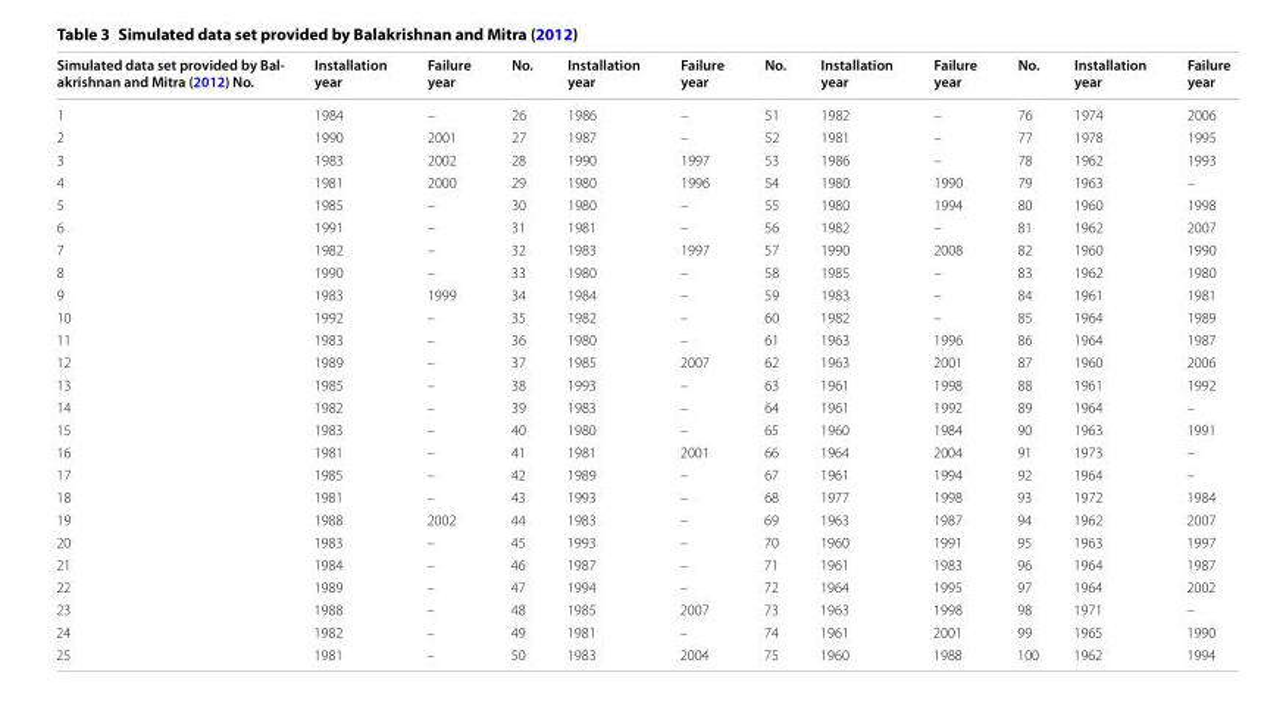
<table><thead><tr><td>Simulated data set provided by Bal- akrishnan and Mitra (2012) No.</td><td>Installation year</td><td>Failure year</td><td>No.</td><td>Installation year</td><td>Failure year</td><td>No.</td><td>Installation year</td><td>Failure year</td><td>No.</td><td>Installation year</td><td>Failure year</td></tr></thead><tbody><tr><td>1</td><td>1984</td><td>–</td><td>26</td><td>1986</td><td>–</td><td>51</td><td>1982</td><td>–</td><td>76</td><td>1974</td><td>2006</td></tr><tr><td>2</td><td>1990</td><td>2001</td><td>27</td><td>1987</td><td>–</td><td>52</td><td>1981</td><td>–</td><td>77</td><td>1978</td><td>1995</td></tr><tr><td>3</td><td>1983</td><td>2002</td><td>28</td><td>1990</td><td>1997</td><td>53</td><td>1986</td><td>–</td><td>78</td><td>1962</td><td>1993</td></tr><tr><td>4</td><td>1981</td><td>2000</td><td>29</td><td>1980</td><td>1996</td><td>54</td><td>1980</td><td>1990</td><td>79</td><td>1963</td><td>–</td></tr><tr><td>5</td><td>1985</td><td>–</td><td>30</td><td>1980</td><td>–</td><td>55</td><td>1980</td><td>1994</td><td>80</td><td>1960</td><td>1998</td></tr><tr><td>6</td><td>1991</td><td>–</td><td>31</td><td>1981</td><td>–</td><td>56</td><td>1982</td><td>–</td><td>81</td><td>1962</td><td>2007</td></tr><tr><td>7</td><td>1982</td><td>–</td><td>32</td><td>1983</td><td>1997</td><td>57</td><td>1990</td><td>2008</td><td>82</td><td>1960</td><td>1990</td></tr><tr><td>8</td><td>1990</td><td>–</td><td>33</td><td>1980</td><td>–</td><td>58</td><td>1985</td><td>–</td><td>83</td><td>1962</td><td>1980</td></tr><tr><td>9</td><td>1983</td><td>1999</td><td>34</td><td>1984</td><td>–</td><td>59</td><td>1983</td><td>–</td><td>84</td><td>1961</td><td>1981</td></tr><tr><td>10</td><td>1992</td><td>–</td><td>35</td><td>1982</td><td>–</td><td>60</td><td>1982</td><td>–</td><td>85</td><td>1964</td><td>1989</td></tr><tr><td>11</td><td>1983</td><td>–</td><td>36</td><td>1980</td><td>–</td><td>61</td><td>1963</td><td>1996</td><td>86</td><td>1964</td><td>1987</td></tr><tr><td>12</td><td>1989</td><td>–</td><td>37</td><td>1985</td><td>2007</td><td>62</td><td>1963</td><td>2001</td><td>87</td><td>1960</td><td>2006</td></tr><tr><td>13</td><td>1985</td><td>–</td><td>38</td><td>1993</td><td>–</td><td>63</td><td>1961</td><td>1998</td><td>88</td><td>1961</td><td>1992</td></tr><tr><td>14</td><td>1982</td><td>–</td><td>39</td><td>1983</td><td>–</td><td>64</td><td>1961</td><td>1992</td><td>89</td><td>1964</td><td>–</td></tr><tr><td>15</td><td>1983</td><td>–</td><td>40</td><td>1980</td><td>–</td><td>65</td><td>1960</td><td>1984</td><td>90</td><td>1963</td><td>1991</td></tr><tr><td>16</td><td>1981</td><td>–</td><td>41</td><td>1981</td><td>2001</td><td>66</td><td>1964</td><td>2004</td><td>91</td><td>1973</td><td>–</td></tr><tr><td>17</td><td>1985</td><td>–</td><td>42</td><td>1989</td><td>–</td><td>67</td><td>1961</td><td>1994</td><td>92</td><td>1964</td><td>–</td></tr><tr><td>18</td><td>1981</td><td>–</td><td>43</td><td>1993</td><td>–</td><td>68</td><td>1977</td><td>1998</td><td>93</td><td>1972</td><td>1984</td></tr><tr><td>19</td><td>1988</td><td>2002</td><td>44</td><td>1983</td><td>–</td><td>69</td><td>1963</td><td>1987</td><td>94</td><td>1962</td><td>2007</td></tr><tr><td>20</td><td>1983</td><td>–</td><td>45</td><td>1993</td><td>–</td><td>70</td><td>1960</td><td>1991</td><td>95</td><td>1963</td><td>1997</td></tr><tr><td>21</td><td>1984</td><td>–</td><td>46</td><td>1987</td><td>–</td><td>71</td><td>1961</td><td>1983</td><td>96</td><td>1964</td><td>1987</td></tr><tr><td>22</td><td>1989</td><td>–</td><td>47</td><td>1994</td><td>–</td><td>72</td><td>1964</td><td>1995</td><td>97</td><td>1964</td><td>2002</td></tr><tr><td>23</td><td>1988</td><td>–</td><td>48</td><td>1985</td><td>2007</td><td>73</td><td>1963</td><td>1998</td><td>98</td><td>1971</td><td>–</td></tr><tr><td>24</td><td>1982</td><td>–</td><td>49</td><td>1981</td><td>–</td><td>74</td><td>1961</td><td>2001</td><td>99</td><td>1965</td><td>1990</td></tr><tr><td>25</td><td>1981</td><td>–</td><td>50</td><td>1983</td><td>2004</td><td>75</td><td>1960</td><td>1988</td><td>100</td><td>1962</td><td>1994</td></tr></tbody></table>